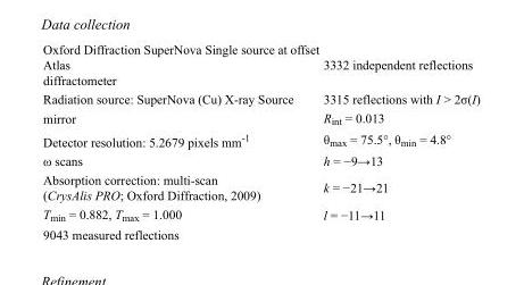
<table><tbody><tr><td>Oxford Diffraction SuperNova Single source at offset Atlas diffractometer</td><td>3332 independent reflections</td></tr><tr><td>Radiation source: SuperNova (Cu) X-ray Source</td><td>3315 reflections with I &gt; 2σ(I)</td></tr><tr><td>mirror</td><td>R<sub>int</sub> = 0.013</td></tr><tr><td>Detector resolution: 5.2679 pixels mm<sup>-1</sup></td><td>θ<sub>max</sub> = 75.5°, θ<sub>min</sub> = 4.8°</td></tr><tr><td>ω scans</td><td>h = −9→13</td></tr><tr><td>Absorption correction: multi-scan (CrysAlis PRO; Oxford Diffraction, 2009)</td><td>k = −21→21</td></tr><tr><td>T<sub>min</sub> = 0.882, T<sub>max</sub> = 1.000</td><td>l = −11→11</td></tr><tr><td>9043 measured reflections</td><td></td></tr></tbody></table>